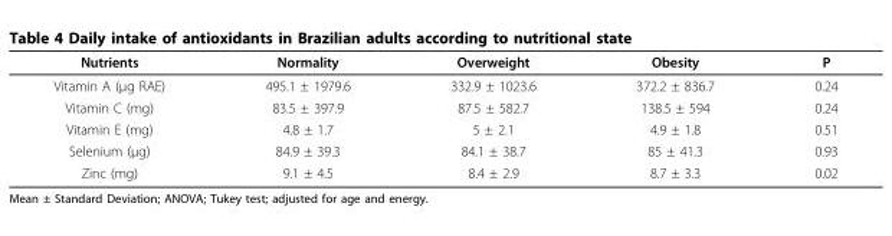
<table><thead><tr><td>Nutrients</td><td>Normality</td><td>Overweight</td><td>Obesity</td><td>P</td></tr></thead><tbody><tr><td>Vitamin A (μg RAE)</td><td>495.1 ± 1979.6</td><td>332.9 ± 1023.6</td><td>372.2 ± 836.7</td><td>0.24</td></tr><tr><td>Vitamin C (mg)</td><td>83.5 ± 397.9</td><td>87.5 ± 582.7</td><td>138.5 ± 594</td><td>0.24</td></tr><tr><td>Vitamin E (mg)</td><td>4.8 ± 1.7</td><td>5 ± 2.1</td><td>4.9 ± 1.8</td><td>0.51</td></tr><tr><td>Selenium (μg)</td><td>84.9 ± 39.3</td><td>84.1 ± 38.7</td><td>85 ± 41.3</td><td>0.93</td></tr><tr><td>Zinc (mg)</td><td>9.1 ± 4.5</td><td>8.4 ± 2.9</td><td>8.7 ± 3.3</td><td>0.02</td></tr></tbody></table>